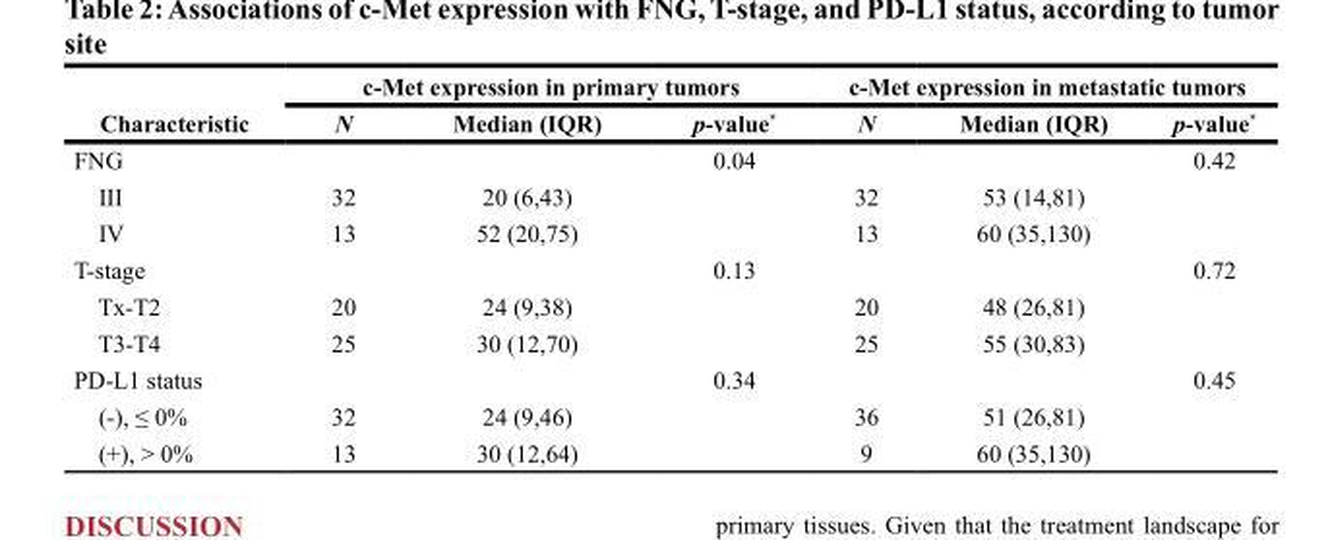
<table><thead><tr><td rowspan="2">Characteristic</td><td colspan="3">c-Met expression in primary tumors</td><td colspan="3">c-Met expression in metastatic tumors</td></tr><tr><td>N</td><td>Median (IQR)</td><td>p-value*</td><td>N</td><td>Median (IQR)</td><td>p-value*</td></tr></thead><tbody><tr><td>FNG</td><td></td><td></td><td>0.04</td><td></td><td></td><td>0.42</td></tr><tr><td>III</td><td>32</td><td>20 (6,43)</td><td></td><td>32</td><td>53 (14,81)</td><td></td></tr><tr><td>IV</td><td>13</td><td>52 (20,75)</td><td></td><td>13</td><td>60 (35,130)</td><td></td></tr><tr><td>T-stage</td><td></td><td></td><td>0.13</td><td></td><td></td><td>0.72</td></tr><tr><td>Tx-T2</td><td>20</td><td>24 (9,38)</td><td></td><td>20</td><td>48 (26,81)</td><td></td></tr><tr><td>T3-T4</td><td>25</td><td>30 (12,70)</td><td></td><td>25</td><td>55 (30,83)</td><td></td></tr><tr><td>PD-L1 status</td><td></td><td></td><td>0.34</td><td></td><td></td><td>0.45</td></tr><tr><td>(-), ≤ 0%</td><td>32</td><td>24 (9,46)</td><td></td><td>36</td><td>51 (26,81)</td><td></td></tr><tr><td>(+), &gt; 0%</td><td>13</td><td>30 (12,64)</td><td></td><td>9</td><td>60 (35,130)</td><td></td></tr></tbody></table>